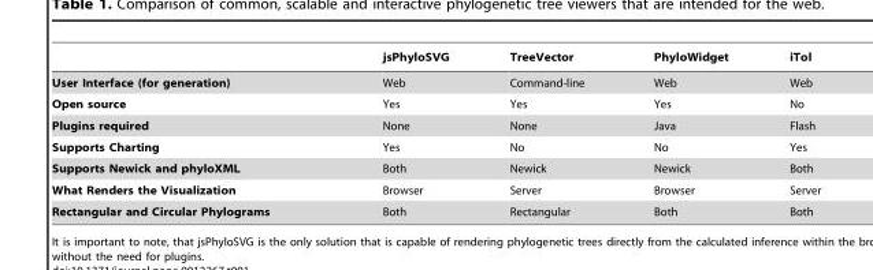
<table><thead><tr><td></td><td>jsPhyloSVG</td><td>TreeVector</td><td>PhyloWidget</td><td>iTol</td></tr></thead><tbody><tr><td>User Interface (for generation)</td><td>Web</td><td>Command-line</td><td>Web</td><td>Web</td></tr><tr><td>Open source</td><td>Yes</td><td>Yes</td><td>Yes</td><td>No</td></tr><tr><td>Plugins required</td><td>None</td><td>None</td><td>Java</td><td>Flash</td></tr><tr><td>Supports Charting</td><td>Yes</td><td>No</td><td>No</td><td>Yes</td></tr><tr><td>Supports Newick and phyloXML</td><td>Both</td><td>Newick</td><td>Newick</td><td>Both</td></tr><tr><td>What Renders the Visualization</td><td>Browser</td><td>Server</td><td>Browser</td><td>Server</td></tr><tr><td>Rectangular and Circular Phylograms</td><td>Both</td><td>Rectangular</td><td>Both</td><td>Both</td></tr></tbody></table>